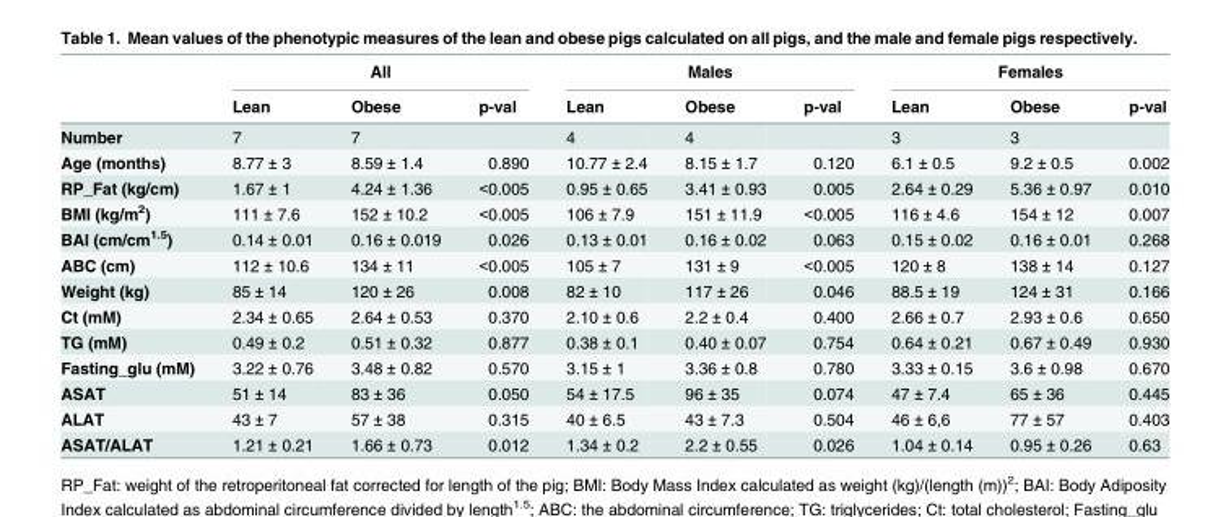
<table><thead><tr><td rowspan="2"></td><td colspan="3">All</td><td colspan="3">Males</td><td colspan="3">Females</td></tr><tr><td>Lean</td><td>Obese</td><td>p-val</td><td>Lean</td><td>Obese</td><td>p-val</td><td>Lean</td><td>Obese</td><td>p-val</td></tr></thead><tbody><tr><td>Number</td><td>7</td><td>7</td><td></td><td>4</td><td>4</td><td></td><td>3</td><td>3</td><td></td></tr><tr><td>Age (months)</td><td>8.77 ± 3</td><td>8.59 ± 1.4</td><td>0.890</td><td>10.77 ± 2.4</td><td>8.15 ± 1.7</td><td>0.120</td><td>6.1 ± 0.5</td><td>9.2 ± 0.5</td><td>0.002</td></tr><tr><td>RP_Fat (kg/cm)</td><td>1.67 ± 1</td><td>4.24 ± 1.36</td><td>&lt;0.005</td><td>0.95 ± 0.65</td><td>3.41 ± 0.93</td><td>0.005</td><td>2.64 ± 0.29</td><td>5.36 ± 0.97</td><td>0.010</td></tr><tr><td>BMI (kg/m<sup>2</sup>)</td><td>111 ± 7.6</td><td>152 ± 10.2</td><td>&lt;0.005</td><td>106 ± 7.9</td><td>151 ± 11.9</td><td>&lt;0.005</td><td>116 ± 4.6</td><td>154 ± 12</td><td>0.007</td></tr><tr><td>BAI (cm/cm<sup>1.5</sup>)</td><td>0.14 ± 0.01</td><td>0.16 ± 0.019</td><td>0.026</td><td>0.13 ± 0.01</td><td>0.16 ± 0.02</td><td>0.063</td><td>0.15 ± 0.02</td><td>0.16 ± 0.01</td><td>0.268</td></tr><tr><td>ABC (cm)</td><td>112 ± 10.6</td><td>134 ± 11</td><td>&lt;0.005</td><td>105 ± 7</td><td>131 ± 9</td><td>&lt;0.005</td><td>120 ± 8</td><td>138 ± 14</td><td>0.127</td></tr><tr><td>Weight (kg)</td><td>85 ± 14</td><td>120 ± 26</td><td>0.008</td><td>82 ± 10</td><td>117 ± 26</td><td>0.046</td><td>88.5 ± 19</td><td>124 ± 31</td><td>0.166</td></tr><tr><td>Ct (mM)</td><td>2.34 ± 0.65</td><td>2.64 ± 0.53</td><td>0.370</td><td>2.10 ± 0.6</td><td>2.2 ± 0.4</td><td>0.400</td><td>2.66 ± 0.7</td><td>2.93 ± 0.6</td><td>0.650</td></tr><tr><td>TG (mM)</td><td>0.49 ± 0.2</td><td>0.51 ± 0.32</td><td>0.877</td><td>0.38 ± 0.1</td><td>0.40 ± 0.07</td><td>0.754</td><td>0.64 ± 0.21</td><td>0.67 ± 0.49</td><td>0.930</td></tr><tr><td>Fasting_glu (mM)</td><td>3.22 ± 0.76</td><td>3.48 ± 0.82</td><td>0.570</td><td>3.15 ± 1</td><td>3.36 ± 0.8</td><td>0.780</td><td>3.33 ± 0.15</td><td>3.6 ± 0.98</td><td>0.670</td></tr><tr><td>ASAT</td><td>51 ± 14</td><td>83 ± 36</td><td>0.050</td><td>54 ± 17.5</td><td>96 ± 35</td><td>0.074</td><td>47 ± 7.4</td><td>65 ± 36</td><td>0.445</td></tr><tr><td>ALAT</td><td>43 ± 7</td><td>57 ± 38</td><td>0.315</td><td>40 ± 6.5</td><td>43 ± 7.3</td><td>0.504</td><td>46 ± 6,6</td><td>77 ± 57</td><td>0.403</td></tr><tr><td>ASAT/ALAT</td><td>1.21 ± 0.21</td><td>1.66 ± 0.73</td><td>0.012</td><td>1.34 ± 0.2</td><td>2.2 ± 0.55</td><td>0.026</td><td>1.04 ± 0.14</td><td>0.95 ± 0.26</td><td>0.63</td></tr></tbody></table>